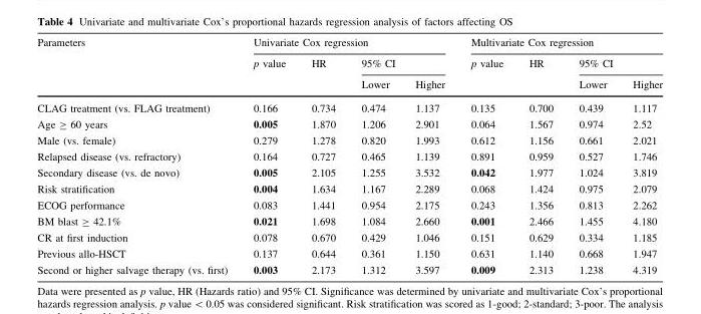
<table><thead><tr><td rowspan="3">Parameters</td><td colspan="4">Univariate Cox regression</td><td colspan="4">Multivariate Cox regression</td></tr><tr><td rowspan="2">p value</td><td rowspan="2">HR</td><td colspan="2">95% CI</td><td rowspan="2">p value</td><td rowspan="2">HR</td><td colspan="2">95% CI</td></tr><tr><td>Lower</td><td>Higher</td><td>Lower</td><td>Higher</td></tr></thead><tbody><tr><td>CLAG treatment (vs. FLAG treatment)</td><td>0.166</td><td>0.734</td><td>0.474</td><td>1.137</td><td>0.135</td><td>0.700</td><td>0.439</td><td>1.117</td></tr><tr><td>Age ≥ 60 years</td><td>0.005</td><td>1.870</td><td>1.206</td><td>2.901</td><td>0.064</td><td>1.567</td><td>0.974</td><td>2.52</td></tr><tr><td>Male (vs. female)</td><td>0.279</td><td>1.278</td><td>0.820</td><td>1.993</td><td>0.612</td><td>1.156</td><td>0.661</td><td>2.021</td></tr><tr><td>Relapsed disease (vs. refractory)</td><td>0.164</td><td>0.727</td><td>0.465</td><td>1.139</td><td>0.891</td><td>0.959</td><td>0.527</td><td>1.746</td></tr><tr><td>Secondary disease (vs. de novo)</td><td>0.005</td><td>2.105</td><td>1.255</td><td>3.532</td><td>0.042</td><td>1.977</td><td>1.024</td><td>3.819</td></tr><tr><td>Risk stratification</td><td>0.004</td><td>1.634</td><td>1.167</td><td>2.289</td><td>0.068</td><td>1.424</td><td>0.975</td><td>2.079</td></tr><tr><td>ECOG performance</td><td>0.083</td><td>1.441</td><td>0.954</td><td>2.175</td><td>0.243</td><td>1.356</td><td>0.813</td><td>2.262</td></tr><tr><td>BM blast ≥ 42.1%</td><td>0.021</td><td>1.698</td><td>1.084</td><td>2.660</td><td>0.001</td><td>2.466</td><td>1.455</td><td>4.180</td></tr><tr><td>CR at first induction</td><td>0.078</td><td>0.670</td><td>0.429</td><td>1.046</td><td>0.151</td><td>0.629</td><td>0.334</td><td>1.185</td></tr><tr><td>Previous allo-HSCT</td><td>0.137</td><td>0.644</td><td>0.361</td><td>1.150</td><td>0.631</td><td>1.140</td><td>0.668</td><td>1.947</td></tr><tr><td>Second or higher salvage therapy (vs. first)</td><td>0.003</td><td>2.173</td><td>1.312</td><td>3.597</td><td>0.009</td><td>2.313</td><td>1.238</td><td>4.319</td></tr></tbody></table>